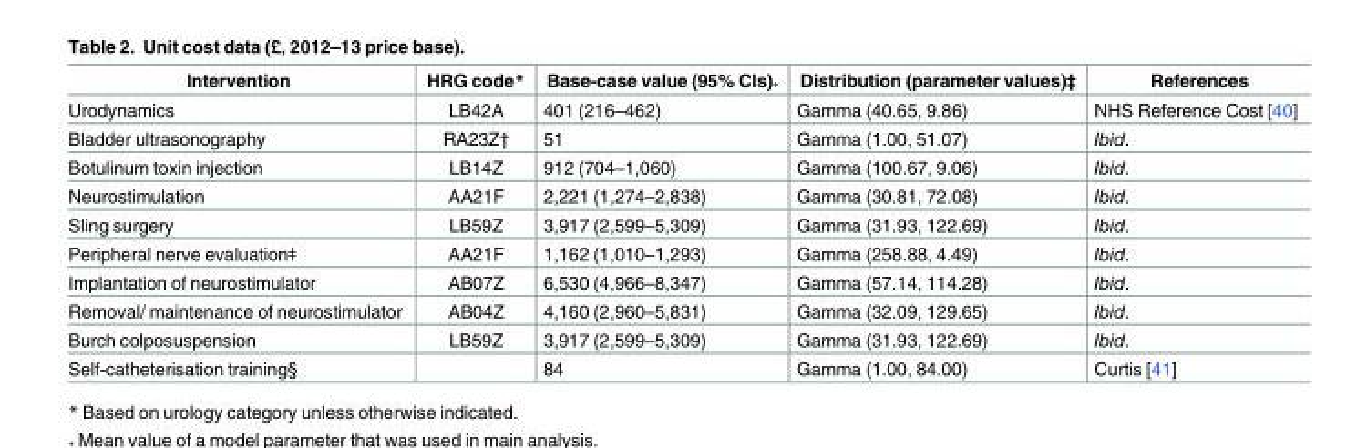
<table><thead><tr><td>Intervention</td><td>HRG code*</td><td>Base-case value (95% CIs)₊</td><td>Distribution (parameter values)‡</td><td>References</td></tr></thead><tbody><tr><td>Urodynamics</td><td>LB42A</td><td>401 (216–462)</td><td>Gamma (40.65, 9.86)</td><td>NHS Reference Cost [40]</td></tr><tr><td>Bladder ultrasonography</td><td>RA23Z†</td><td>51</td><td>Gamma (1.00, 51.07)</td><td>Ibid.</td></tr><tr><td>Botulinum toxin injection</td><td>LB14Z</td><td>912 (704–1,060)</td><td>Gamma (100.67, 9.06)</td><td>Ibid.</td></tr><tr><td>Neurostimulation</td><td>AA21F</td><td>2,221 (1,274–2,838)</td><td>Gamma (30.81, 72.08)</td><td>Ibid.</td></tr><tr><td>Sling surgery</td><td>LB59Z</td><td>3,917 (2,599–5,309)</td><td>Gamma (31.93, 122.69)</td><td>Ibid.</td></tr><tr><td>Peripheral nerve evaluationǂ</td><td>AA21F</td><td>1,162 (1,010–1,293)</td><td>Gamma (258.88, 4.49)</td><td>Ibid.</td></tr><tr><td>Implantation of neurostimulator</td><td>AB07Z</td><td>6,530 (4,966–8,347)</td><td>Gamma (57.14, 114.28)</td><td>Ibid.</td></tr><tr><td>Removal/ maintenance of neurostimulator</td><td>AB04Z</td><td>4,160 (2,960–5,831)</td><td>Gamma (32.09, 129.65)</td><td>Ibid.</td></tr><tr><td>Burch colposuspension</td><td>LB59Z</td><td>3,917 (2,599–5,309)</td><td>Gamma (31.93, 122.69)</td><td>Ibid.</td></tr><tr><td>Self-catheterisation training§</td><td></td><td>84</td><td>Gamma (1.00, 84.00)</td><td>Curtis [41]</td></tr></tbody></table>